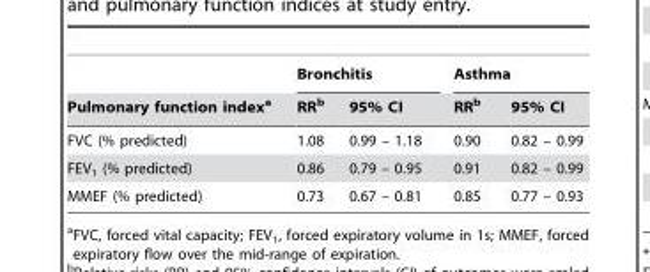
<table><thead><tr><td rowspan="2">Pulmonary function index<sup>a</sup></td><td colspan="2">Bronchitis</td><td colspan="2">Asthma</td></tr><tr><td>RR<sup>b</sup></td><td>95% CI</td><td>RR<sup>b</sup></td><td>95% CI</td></tr></thead><tbody><tr><td>FVC (% predicted)</td><td>1.08</td><td>0.99 – 1.18</td><td>0.90</td><td>0.82 – 0.99</td></tr><tr><td>FEV<sub>1</sub> (% predicted)</td><td>0.86</td><td>0.79 – 0.95</td><td>0.91</td><td>0.82 – 0.99</td></tr><tr><td>MMEF (% predicted)</td><td>0.73</td><td>0.67 – 0.81</td><td>0.85</td><td>0.77 – 0.93</td></tr></tbody></table>